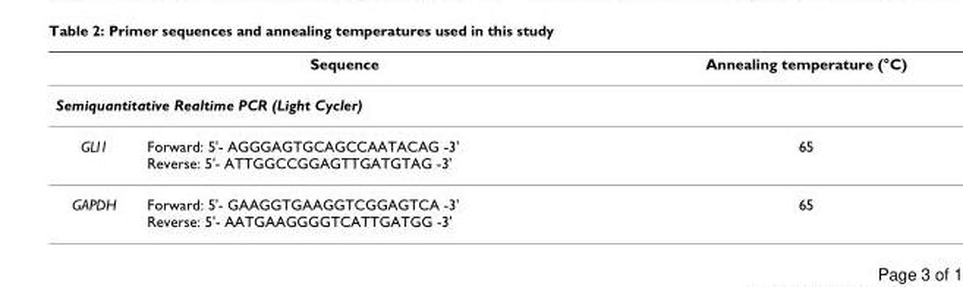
<table><thead><tr><td colspan="2">Sequence</td><td>Annealing temperature (°C)</td></tr><tr><td colspan="3">Semiquantitative Realtime PCR (Light Cycler)</td></tr><tr><td>GLI1</td><td>Forward: 5&#x27;- AGGGAGTGCAGCCAATACAG -3&#x27; Reverse: 5&#x27;- ATTGGCCGGAGTTGATGTAG -3&#x27;</td><td>65</td></tr></thead><tbody><tr><td>GAPDH</td><td>Forward: 5&#x27;- GAAGGTGAAGGTCGGAGTCA -3&#x27; Reverse: 5&#x27;- AATGAAGGGGTCATTGATGG -3&#x27;</td><td>65</td></tr></tbody></table>